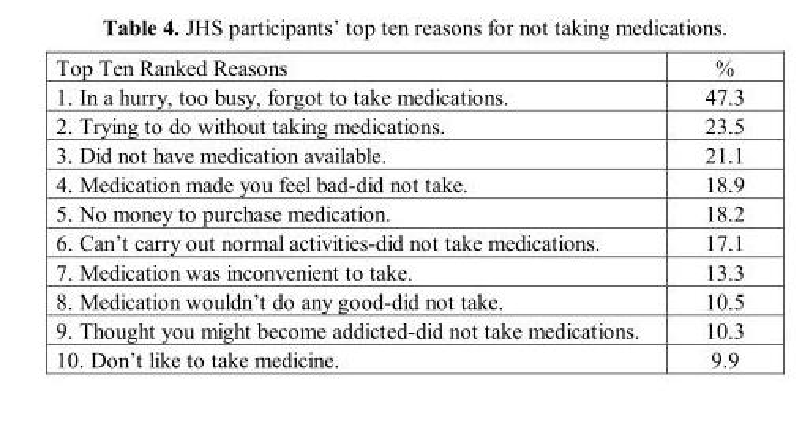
<table><thead><tr><td>Top Ten Ranked Reasons</td><td>%</td></tr></thead><tbody><tr><td>1. In a hurry, too busy, forgot to take medications.</td><td>47.3</td></tr><tr><td>2. Trying to do without taking medications.</td><td>23.5</td></tr><tr><td>3. Did not have medication available.</td><td>21.1</td></tr><tr><td>4. Medication made you feel bad-did not take.</td><td>18.9</td></tr><tr><td>5. No money to purchase medication.</td><td>18.2</td></tr><tr><td>6. Can’t carry out normal activities-did not take medications.</td><td>17.1</td></tr><tr><td>7. Medication was inconvenient to take.</td><td>13.3</td></tr><tr><td>8. Medication wouldn’t do any good-did not take.</td><td>10.5</td></tr><tr><td>9. Thought you might become addicted-did not take medications.</td><td>10.3</td></tr><tr><td>10. Don’t like to take medicine.</td><td>9.9</td></tr></tbody></table>